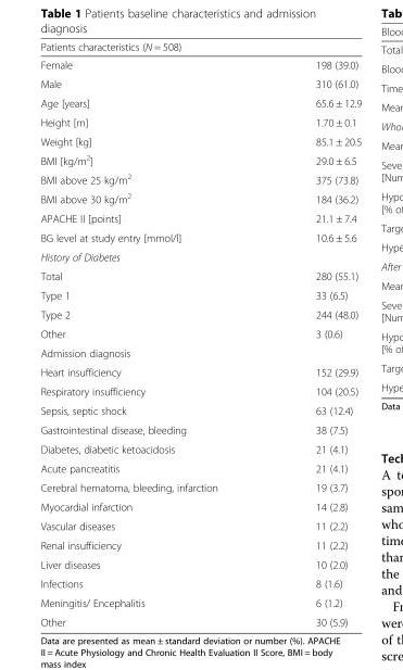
<table><thead><tr><td colspan="2">Patients characteristics (N = 508)</td></tr><tr><td>Female</td><td>198 (39.0)</td></tr></thead><tbody><tr><td>Male</td><td>310 (61.0)</td></tr><tr><td>Age [years]</td><td>65.6 ± 12.9</td></tr><tr><td>Height [m]</td><td>1.70 ± 0.1</td></tr><tr><td>Weight [kg]</td><td>85.1 ± 20.5</td></tr><tr><td>BMI [kg/m<sup>2</sup>]</td><td>29.0 ± 6.5</td></tr><tr><td>BMI above 25 kg/m<sup>2</sup></td><td>375 (73.8)</td></tr><tr><td>BMI above 30 kg/m<sup>2</sup></td><td>184 (36.2)</td></tr><tr><td>APACHE II [points]</td><td>21.1 ± 7.4</td></tr><tr><td>BG level at study entry [mmol/l]</td><td>10.6 ± 5.6</td></tr><tr><td colspan="2">History of Diabetes</td></tr><tr><td>Total</td><td>280 (55.1)</td></tr><tr><td>Type 1</td><td>33 (6.5)</td></tr><tr><td>Type 2</td><td>244 (48.0)</td></tr><tr><td>Other</td><td>3 (0.6)</td></tr><tr><td colspan="2">Admission diagnosis</td></tr><tr><td>Heart insufficiency</td><td>152 (29.9)</td></tr><tr><td>Respiratory insufficiency</td><td>104 (20.5)</td></tr><tr><td>Sepsis, septic shock</td><td>63 (12.4)</td></tr><tr><td>Gastrointestinal disease, bleeding</td><td>38 (7.5)</td></tr><tr><td>Diabetes, diabetic ketoacidosis</td><td>21 (4.1)</td></tr><tr><td>Acute pancreatitis</td><td>21 (4.1)</td></tr><tr><td>Cerebral hematoma, bleeding, infarction</td><td>19 (3.7)</td></tr><tr><td>Myocardial infarction</td><td>14 (2.8)</td></tr><tr><td>Vascular diseases</td><td>11 (2.2)</td></tr><tr><td>Renal insufficiency</td><td>11 (2.2)</td></tr><tr><td>Liver diseases</td><td>10 (2.0)</td></tr><tr><td>Infections</td><td>8 (1.6)</td></tr><tr><td>Meningitis/ Encephalitis</td><td>6 (1.2)</td></tr><tr><td>Other</td><td>30 (5.9)</td></tr></tbody></table>